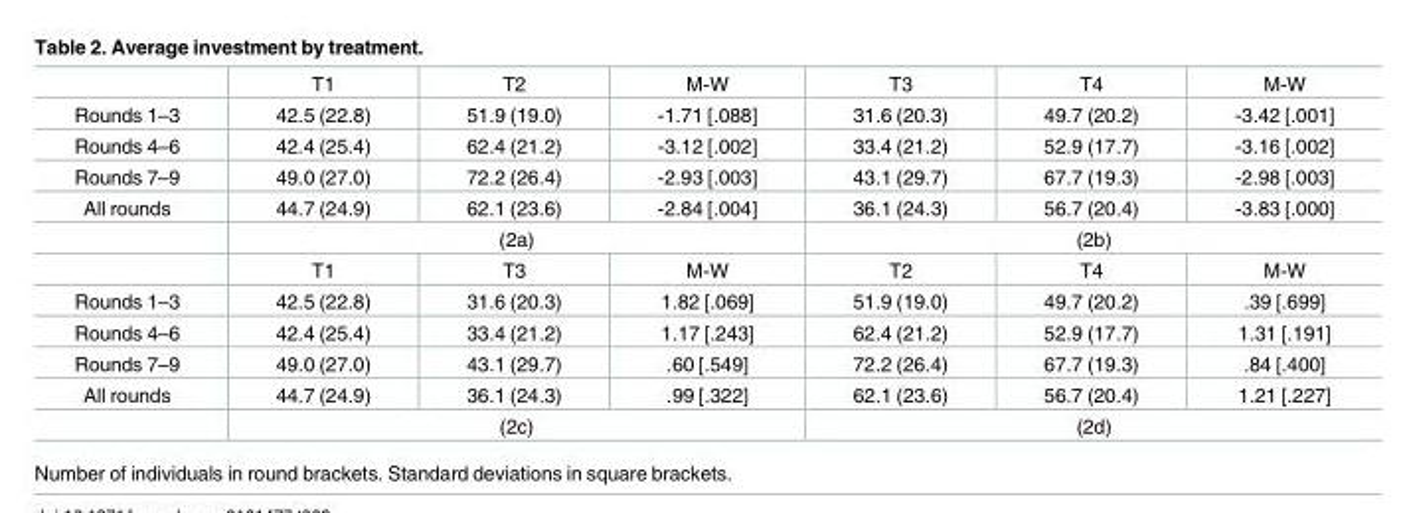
<table><thead><tr><td></td><td>T1</td><td>T2</td><td>M-W</td><td>T3</td><td>T4</td><td>M-W</td></tr></thead><tbody><tr><td>Rounds 1–3</td><td>42.5 (22.8)</td><td>51.9 (19.0)</td><td>-1.71 [.088]</td><td>31.6 (20.3)</td><td>49.7 (20.2)</td><td>-3.42 [.001]</td></tr><tr><td>Rounds 4–6</td><td>42.4 (25.4)</td><td>62.4 (21.2)</td><td>-3.12 [.002]</td><td>33.4 (21.2)</td><td>52.9 (17.7)</td><td>-3.16 [.002]</td></tr><tr><td>Rounds 7–9</td><td>49.0 (27.0)</td><td>72.2 (26.4)</td><td>-2.93 [.003]</td><td>43.1 (29.7)</td><td>67.7 (19.3)</td><td>-2.98 [.003]</td></tr><tr><td rowspan="3">All rounds</td><td>44.7 (24.9)</td><td>62.1 (23.6)</td><td>-2.84 [.004]</td><td>36.1 (24.3)</td><td>56.7 (20.4)</td><td>-3.83 [.000]</td></tr><tr><td colspan="3">(2a)</td><td colspan="3">(2b)</td></tr><tr><td>T1</td><td>T3</td><td>M-W</td><td>T2</td><td>T4</td><td>M-W</td></tr><tr><td>Rounds 1–3</td><td>42.5 (22.8)</td><td>31.6 (20.3)</td><td>1.82 [.069]</td><td>51.9 (19.0)</td><td>49.7 (20.2)</td><td>.39 [.699]</td></tr><tr><td>Rounds 4–6</td><td>42.4 (25.4)</td><td>33.4 (21.2)</td><td>1.17 [.243]</td><td>62.4 (21.2)</td><td>52.9 (17.7)</td><td>1.31 [.191]</td></tr><tr><td>Rounds 7–9</td><td>49.0 (27.0)</td><td>43.1 (29.7)</td><td>.60 [.549]</td><td>72.2 (26.4)</td><td>67.7 (19.3)</td><td>.84 [.400]</td></tr><tr><td rowspan="2">All rounds</td><td>44.7 (24.9)</td><td>36.1 (24.3)</td><td>.99 [.322]</td><td>62.1 (23.6)</td><td>56.7 (20.4)</td><td>1.21 [.227]</td></tr><tr><td colspan="3">(2c)</td><td colspan="3">(2d)</td></tr></tbody></table>